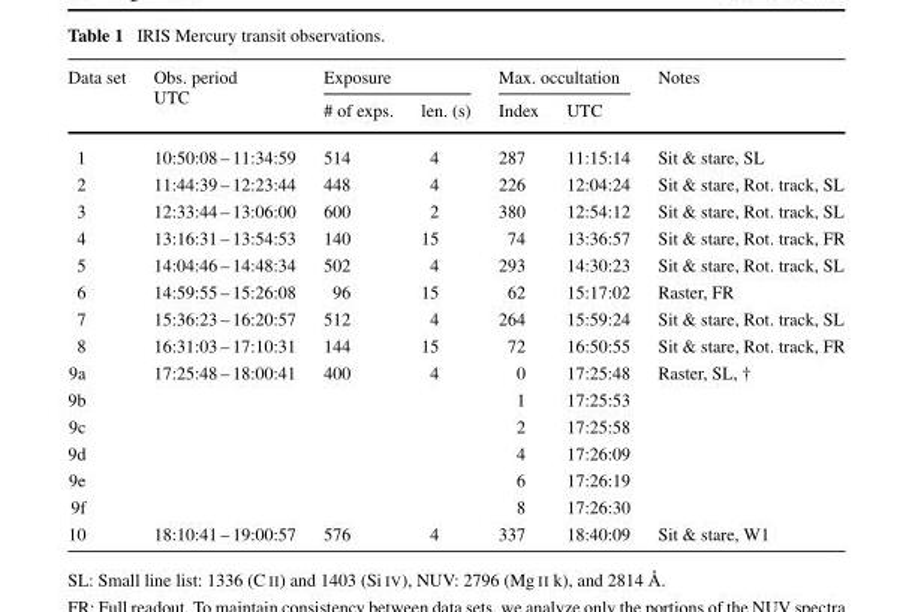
<table><thead><tr><td rowspan="2">Data set</td><td rowspan="2">Obs. period UTC</td><td colspan="2">Exposure</td><td colspan="2">Max. occultation</td><td rowspan="2">Notes</td></tr><tr><td># of exps.</td><td>len. (s)</td><td>Index</td><td>UTC</td></tr></thead><tbody><tr><td>1</td><td>10:50:08 – 11:34:59</td><td>514</td><td>4</td><td>287</td><td>11:15:14</td><td>Sit &amp; stare, SL</td></tr><tr><td>2</td><td>11:44:39 – 12:23:44</td><td>448</td><td>4</td><td>226</td><td>12:04:24</td><td>Sit &amp; stare, Rot. track, SL</td></tr><tr><td>3</td><td>12:33:44 – 13:06:00</td><td>600</td><td>2</td><td>380</td><td>12:54:12</td><td>Sit &amp; stare, Rot. track, SL</td></tr><tr><td>4</td><td>13:16:31 – 13:54:53</td><td>140</td><td>15</td><td>74</td><td>13:36:57</td><td>Sit &amp; stare, Rot. track, FR</td></tr><tr><td>5</td><td>14:04:46 – 14:48:34</td><td>502</td><td>4</td><td>293</td><td>14:30:23</td><td>Sit &amp; stare, Rot. track, SL</td></tr><tr><td>6</td><td>14:59:55 – 15:26:08</td><td>96</td><td>15</td><td>62</td><td>15:17:02</td><td>Raster, FR</td></tr><tr><td>7</td><td>15:36:23 – 16:20:57</td><td>512</td><td>4</td><td>264</td><td>15:59:24</td><td>Sit &amp; stare, Rot. track, SL</td></tr><tr><td>8</td><td>16:31:03 – 17:10:31</td><td>144</td><td>15</td><td>72</td><td>16:50:55</td><td>Sit &amp; stare, Rot. track, FR</td></tr><tr><td>9a</td><td>17:25:48 – 18:00:41</td><td>400</td><td>4</td><td>0</td><td>17:25:48</td><td>Raster, SL, †</td></tr><tr><td>9b</td><td></td><td></td><td></td><td>1</td><td>17:25:53</td><td></td></tr><tr><td>9c</td><td></td><td></td><td></td><td>2</td><td>17:25:58</td><td></td></tr><tr><td>9d</td><td></td><td></td><td></td><td>4</td><td>17:26:09</td><td></td></tr><tr><td>9e</td><td></td><td></td><td></td><td>6</td><td>17:26:19</td><td></td></tr><tr><td>9f</td><td></td><td></td><td></td><td>8</td><td>17:26:30</td><td></td></tr><tr><td>10</td><td>18:10:41 – 19:00:57</td><td>576</td><td>4</td><td>337</td><td>18:40:09</td><td>Sit &amp; stare, W1</td></tr></tbody></table>